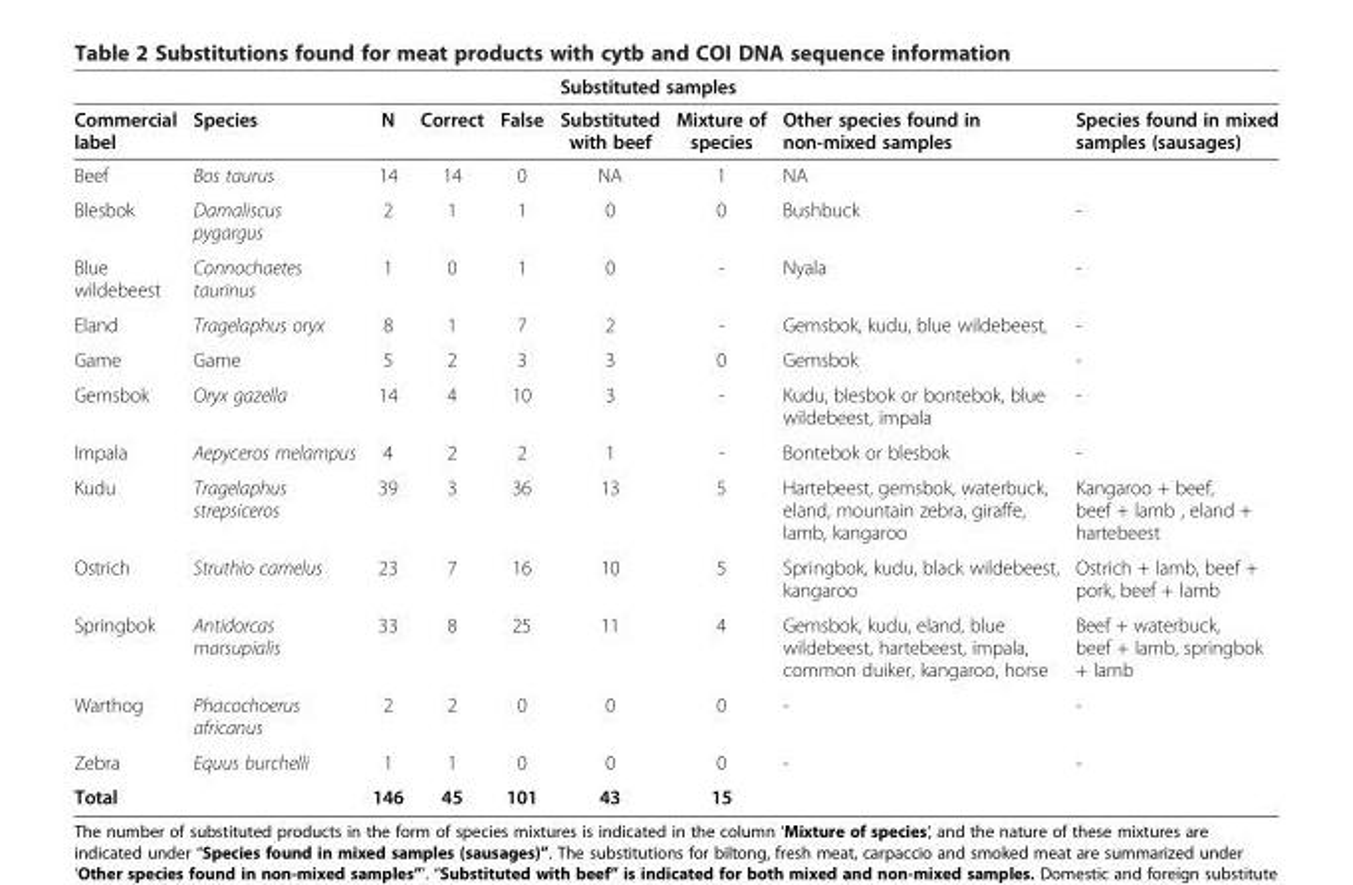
<table><thead><tr><td rowspan="2">Commercial label</td><td rowspan="2">Species</td><td rowspan="2">N</td><td rowspan="2">Correct</td><td rowspan="2">False</td><td colspan="2">Substituted samples</td><td rowspan="2">Other species found in non-mixed samples</td><td rowspan="2">Species found in mixed samples (sausages)</td></tr><tr><td>Substituted with beef</td><td>Mixture of species</td></tr></thead><tbody><tr><td>Beef</td><td>Bos taurus</td><td>14</td><td>14</td><td>0</td><td>NA</td><td>1</td><td>NA</td><td></td></tr><tr><td>Blesbok</td><td>Damaliscus pygargus</td><td>2</td><td>1</td><td>1</td><td>0</td><td>0</td><td>Bushbuck</td><td>-</td></tr><tr><td>Blue wildebeest</td><td>Connochaetes taurinus</td><td>1</td><td>0</td><td>1</td><td>0</td><td>-</td><td>Nyala</td><td>-</td></tr><tr><td>Eland</td><td>Tragelaphus oryx</td><td>8</td><td>1</td><td>7</td><td>2</td><td>-</td><td>Gemsbok, kudu, blue wildebeest,</td><td>-</td></tr><tr><td>Game</td><td>Game</td><td>5</td><td>2</td><td>3</td><td>3</td><td>0</td><td>Gemsbok</td><td>-</td></tr><tr><td>Gemsbok</td><td>Oryx gazella</td><td>14</td><td>4</td><td>10</td><td>3</td><td>-</td><td>Kudu, blesbok or bontebok, blue wildebeest, impala</td><td>-</td></tr><tr><td>Impala</td><td>Aepyceros melampus</td><td>4</td><td>2</td><td>2</td><td>1</td><td>-</td><td>Bontebok or blesbok</td><td>-</td></tr><tr><td>Kudu</td><td>Tragelaphus strepsiceros</td><td>39</td><td>3</td><td>36</td><td>13</td><td>5</td><td>Hartebeest, gemsbok, waterbuck, eland, mountain zebra, giraffe, lamb, kangaroo</td><td>Kangaroo + beef, beef + lamb , eland + hartebeest</td></tr><tr><td>Ostrich</td><td>Struthio camelus</td><td>23</td><td>7</td><td>16</td><td>10</td><td>5</td><td>Springbok, kudu, black wildebeest, kangaroo</td><td>Ostrich + lamb, beef + pork, beef + lamb</td></tr><tr><td>Springbok</td><td>Antidorcas marsupialis</td><td>33</td><td>8</td><td>25</td><td>11</td><td>4</td><td>Gemsbok, kudu, eland, blue wildebeest, hartebeest, impala, common duiker, kangaroo, horse</td><td>Beef + waterbuck, beef + lamb, springbok + lamb</td></tr><tr><td>Warthog</td><td>Phacochoerus africanus</td><td>2</td><td>2</td><td>0</td><td>0</td><td>0</td><td>-</td><td>-</td></tr><tr><td>Zebra</td><td>Equus burchelli</td><td>1</td><td>1</td><td>0</td><td>0</td><td>0</td><td>-</td><td>-</td></tr><tr><td>Total</td><td></td><td>146</td><td>45</td><td>101</td><td>43</td><td>15</td><td></td><td></td></tr></tbody></table>